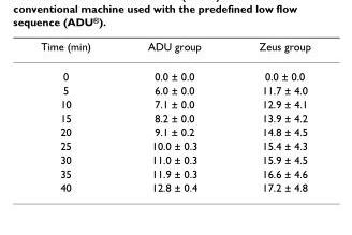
<table><thead><tr><td>Time (min)</td><td>ADU group</td><td>Zeus group</td></tr></thead><tbody><tr><td>0</td><td>0.0 ± 0.0</td><td>0.0 ± 0.0</td></tr><tr><td>5</td><td>6.0 ± 0.0</td><td>11.7 ± 4.0</td></tr><tr><td>10</td><td>7.1 ± 0.0</td><td>12.9 ± 4.1</td></tr><tr><td>15</td><td>8.2 ± 0.0</td><td>13.9 ± 4.2</td></tr><tr><td>20</td><td>9.1 ± 0.2</td><td>14.8 ± 4.5</td></tr><tr><td>25</td><td>10.0 ± 0.3</td><td>15.4 ± 4.3</td></tr><tr><td>30</td><td>11.0 ± 0.3</td><td>15.9 ± 4.5</td></tr><tr><td>35</td><td>11.9 ± 0.3</td><td>16.6 ± 4.6</td></tr><tr><td>40</td><td>12.8 ± 0.4</td><td>17.2 ± 4.8</td></tr></tbody></table>